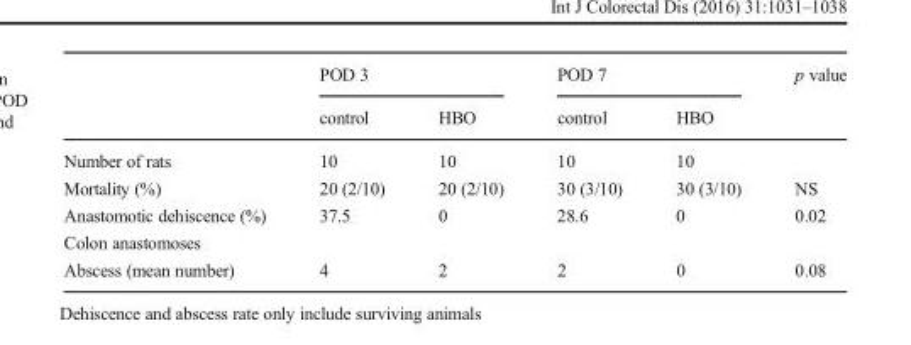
<table><thead><tr><td rowspan="2"></td><td colspan="2">POD 3</td><td colspan="2">POD 7</td><td rowspan="2">p value</td></tr><tr><td>control</td><td>HBO</td><td>control</td><td>HBO</td></tr></thead><tbody><tr><td>Number of rats</td><td>10</td><td>10</td><td>10</td><td>10</td><td></td></tr><tr><td>Mortality (%)</td><td>20 (2/10)</td><td>20 (2/10)</td><td>30 (3/10)</td><td>30 (3/10)</td><td>NS</td></tr><tr><td>Anastomotic dehiscence (%)</td><td>37.5</td><td>0</td><td>28.6</td><td>0</td><td>0.02</td></tr><tr><td colspan="6">Colon anastomoses</td></tr><tr><td>Abscess (mean number)</td><td>4</td><td>2</td><td>2</td><td>0</td><td>0.08</td></tr></tbody></table>